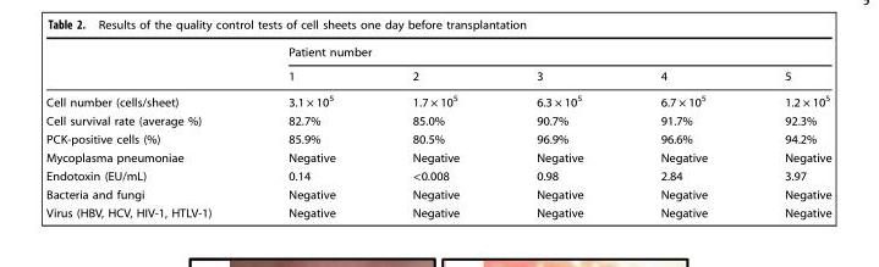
<table><thead><tr><td rowspan="2"></td><td colspan="5">Patient number</td></tr><tr><td>1</td><td>2</td><td>3</td><td>4</td><td>5</td></tr></thead><tbody><tr><td>Cell number (cells/sheet)</td><td>3.1 × 10<sup>5</sup></td><td>1.7 × 10<sup>5</sup></td><td>6.3 × 10<sup>5</sup></td><td>6.7 × 10<sup>5</sup></td><td>1.2 × 10<sup>5</sup></td></tr><tr><td>Cell survival rate (average %)</td><td>82.7%</td><td>85.0%</td><td>90.7%</td><td>91.7%</td><td>92.3%</td></tr><tr><td>PCK-positive cells (%)</td><td>85.9%</td><td>80.5%</td><td>96.9%</td><td>96.6%</td><td>94.2%</td></tr><tr><td>Mycoplasma pneumoniae</td><td>Negative</td><td>Negative</td><td>Negative</td><td>Negative</td><td>Negative</td></tr><tr><td>Endotoxin (EU/mL)</td><td>0.14</td><td>&lt;0.008</td><td>0.98</td><td>2.84</td><td>3.97</td></tr><tr><td>Bacteria and fungi</td><td>Negative</td><td>Negative</td><td>Negative</td><td>Negative</td><td>Negative</td></tr><tr><td>Virus (HBV, HCV, HIV-1, HTLV-1)</td><td>Negative</td><td>Negative</td><td>Negative</td><td>Negative</td><td>Negative</td></tr></tbody></table>